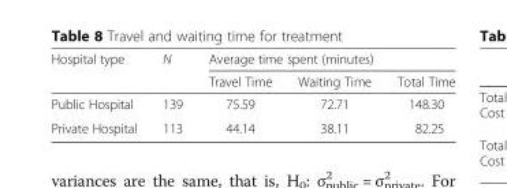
<table><thead><tr><td rowspan="2">Hospital type</td><td rowspan="2">N</td><td colspan="3">Average time spent (minutes)</td></tr><tr><td>Travel Time</td><td>Waiting Time</td><td>Total Time</td></tr></thead><tbody><tr><td>Public Hospital</td><td>139</td><td>75.59</td><td>72.71</td><td>148.30</td></tr><tr><td>Private Hospital</td><td>113</td><td>44.14</td><td>38.11</td><td>82.25</td></tr></tbody></table>